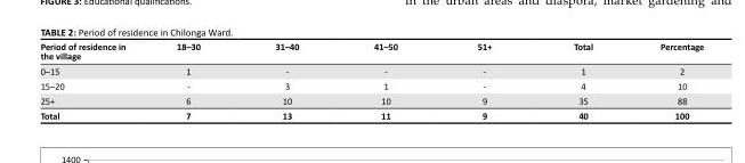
<table><thead><tr><td>Period of residence in the village</td><td>18–30</td><td>31–40</td><td>41–50</td><td>51+</td><td>Total</td><td>Percentage</td></tr></thead><tbody><tr><td>0–15</td><td>1</td><td>-</td><td>-</td><td>-</td><td>1</td><td>2</td></tr><tr><td>15–20</td><td>-</td><td>3</td><td>1</td><td>-</td><td>4</td><td>10</td></tr><tr><td>25+</td><td>6</td><td>10</td><td>10</td><td>9</td><td>35</td><td>88</td></tr><tr><td>Total</td><td>7</td><td>13</td><td>11</td><td>9</td><td>40</td><td>100</td></tr></tbody></table>